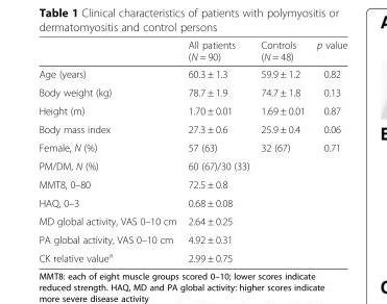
<table><thead><tr><td></td><td>All patients (N = 90)</td><td>Controls (N = 48)</td><td>p value</td></tr></thead><tbody><tr><td>Age (years)</td><td>60.3 ± 1.3</td><td>59.9 ± 1.2</td><td>0.82</td></tr><tr><td>Body weight (kg)</td><td>78.7 ± 1.9</td><td>74.7 ± 1.8</td><td>0.13</td></tr><tr><td>Height (m)</td><td>1.70 ± 0.01</td><td>1.69 ± 0.01</td><td>0.87</td></tr><tr><td>Body mass index</td><td>27.3 ± 0.6</td><td>25.9 ± 0.4</td><td>0.06</td></tr><tr><td>Female, N (%)</td><td>57 (63)</td><td>32 (67)</td><td>0.71</td></tr><tr><td>PM/DM, N (%)</td><td>60 (67)/30 (33)</td><td></td><td></td></tr><tr><td>MMT8, 0–80</td><td>72.5 ± 0.8</td><td></td><td></td></tr><tr><td>HAQ, 0–3</td><td>0.68 ± 0.08</td><td></td><td></td></tr><tr><td>MD global activity, VAS 0–10 cm</td><td>2.64 ± 0.25</td><td></td><td></td></tr><tr><td>PA global activity, VAS 0–10 cm</td><td>4.92 ± 0.31</td><td></td><td></td></tr><tr><td>CK relative value<sup>a</sup></td><td>2.99 ± 0.75</td><td></td><td></td></tr></tbody></table>